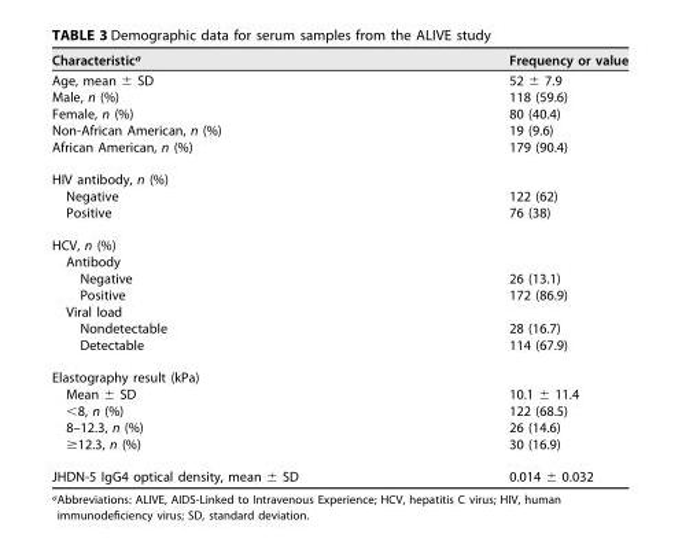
<table><thead><tr><td>Characteristic<sup>a</sup></td><td>Frequency or value</td></tr></thead><tbody><tr><td>Age, mean ± SD</td><td>52 ± 7.9</td></tr><tr><td>Male, n (%)</td><td>118 (59.6)</td></tr><tr><td>Female, n (%)</td><td>80 (40.4)</td></tr><tr><td>Non-African American, n (%)</td><td>19 (9.6)</td></tr><tr><td>African American, n (%)</td><td>179 (90.4)</td></tr><tr><td colspan="2">HIV antibody, n (%)</td></tr><tr><td>Negative</td><td>122 (62)</td></tr><tr><td>Positive</td><td>76 (38)</td></tr><tr><td colspan="2">HCV, n (%)</td></tr><tr><td colspan="2">Antibody</td></tr><tr><td>Negative</td><td>26 (13.1)</td></tr><tr><td>Positive</td><td>172 (86.9)</td></tr><tr><td colspan="2">Viral load</td></tr><tr><td>Nondetectable</td><td>28 (16.7)</td></tr><tr><td>Detectable</td><td>114 (67.9)</td></tr><tr><td colspan="2">Elastography result (kPa)</td></tr><tr><td>Mean ± SD</td><td>10.1 ± 11.4</td></tr><tr><td>&lt;8, n (%)</td><td>122 (68.5)</td></tr><tr><td>8–12.3, n (%)</td><td>26 (14.6)</td></tr><tr><td>≥12.3, n (%)</td><td>30 (16.9)</td></tr><tr><td>JHDN-5 IgG4 optical density, mean ± SD</td><td>0.014 ± 0.032</td></tr></tbody></table>